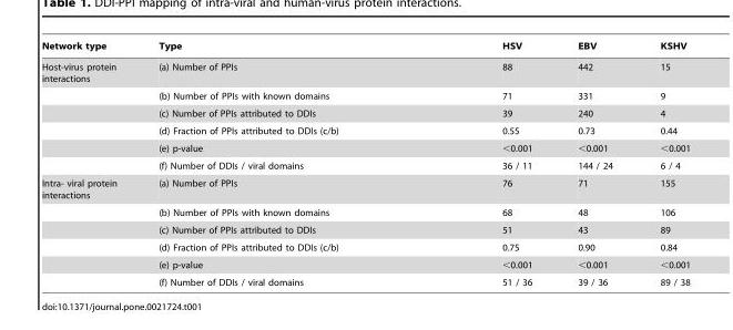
<table><thead><tr><td>Network type</td><td>Type</td><td>HSV</td><td>EBV</td><td>KSHV</td></tr></thead><tbody><tr><td rowspan="6">Host-virus protein interactions</td><td>(a) Number of PPIs</td><td>88</td><td>442</td><td>15</td></tr><tr><td>(b) Number of PPIs with known domains</td><td>71</td><td>331</td><td>9</td></tr><tr><td>(c) Number of PPIs attributed to DDIs</td><td>39</td><td>240</td><td>4</td></tr><tr><td>(d) Fraction of PPIs attributed to DDIs (c/b)</td><td>0.55</td><td>0.73</td><td>0.44</td></tr><tr><td>(e) p-value</td><td>&lt;0.001</td><td>&lt;0.001</td><td>&lt;0.001</td></tr><tr><td>(f) Number of DDIs / viral domains</td><td>36 / 11</td><td>144 / 24</td><td>6 / 4</td></tr><tr><td rowspan="6">Intra- viral protein interactions</td><td>(a) Number of PPIs</td><td>76</td><td>71</td><td>155</td></tr><tr><td>(b) Number of PPIs with known domains</td><td>68</td><td>48</td><td>106</td></tr><tr><td>(c) Number of PPIs attributed to DDIs</td><td>51</td><td>43</td><td>89</td></tr><tr><td>(d) Fraction of PPIs attributed to DDIs (c/b)</td><td>0.75</td><td>0.90</td><td>0.84</td></tr><tr><td>(e) p-value</td><td>&lt;0.001</td><td>&lt;0.001</td><td>&lt;0.001</td></tr><tr><td>(f) Number of DDIs / viral domains</td><td>51 / 36</td><td>39 / 36</td><td>89 / 38</td></tr></tbody></table>